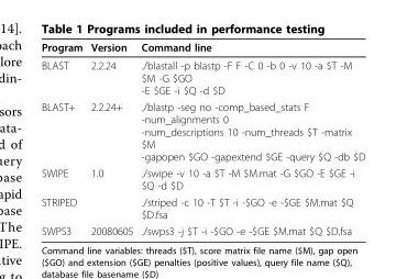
<table><thead><tr><td>Program</td><td>Version</td><td>Command line</td></tr></thead><tbody><tr><td>BLAST</td><td>2.2.24</td><td>./blastall -p blastp -F F -C 0 -b 0 -v 10 -a $T -M $M -G $GO -E $GE -i $Q -d $D</td></tr><tr><td>BLAST+</td><td>2.2.24+</td><td>./blastp -seg no -comp_based_stats F -num_alignments 0 -num_descriptions 10 -num_threads $T -matrix $M -gapopen $GO -gapextend $GE -query $Q -db $D</td></tr><tr><td>SWIPE</td><td>1.0</td><td>./swipe -v 10 -a $T -M $M.mat -G $GO -E $GE -i $Q -d $D</td></tr><tr><td>STRIPED</td><td></td><td>./striped -c 10 -T $T -i -$GO -e -$GE $M.mat $Q $D.fsa</td></tr><tr><td>SWPS3</td><td>20080605</td><td>./swps3 -j $T -i -$GO -e -$GE $M.mat $Q $D.fsa</td></tr></tbody></table>